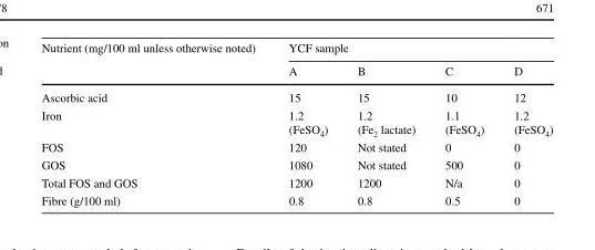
<table><thead><tr><td rowspan="2">Nutrient (mg/100 ml unless otherwise noted)</td><td colspan="4">YCF sample</td></tr><tr><td>A</td><td>B</td><td>C</td><td>D</td></tr></thead><tbody><tr><td>Ascorbic acid</td><td>15</td><td>15</td><td>10</td><td>12</td></tr><tr><td>Iron</td><td>1.2 (FeSO<sub>4</sub>)</td><td>1.2 (Fe<sub>2</sub> lactate)</td><td>1.1 (FeSO<sub>4</sub>)</td><td>1.2 (FeSO<sub>4</sub>)</td></tr><tr><td>FOS</td><td>120</td><td>Not stated</td><td>0</td><td>0</td></tr><tr><td>GOS</td><td>1080</td><td>Not stated</td><td>500</td><td>0</td></tr><tr><td>Total FOS and GOS</td><td>1200</td><td>1200</td><td>N/a</td><td>0</td></tr><tr><td>Fibre (g/100 ml)</td><td>0.8</td><td>0.8</td><td>0.5</td><td>0</td></tr></tbody></table>